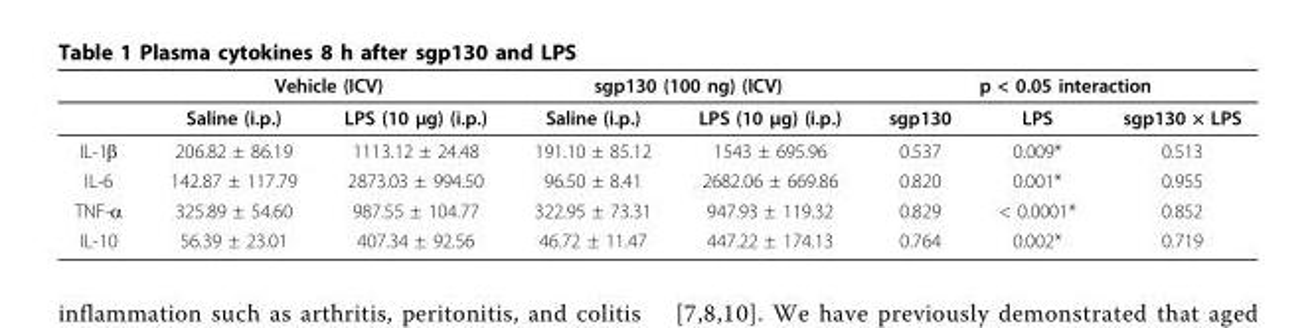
<table><thead><tr><td rowspan="2"></td><td colspan="2">Vehicle (ICV)</td><td colspan="2">sgp130 (100 ng) (ICV)</td><td colspan="3">p &lt; 0.05 interaction</td></tr><tr><td>Saline (i.p.)</td><td>LPS (10 μg) (i.p.)</td><td>Saline (i.p.)</td><td>LPS (10 μg) (i.p.)</td><td>sgp130</td><td>LPS</td><td>sgp130 × LPS</td></tr></thead><tbody><tr><td>IL-1β</td><td>206.82 ± 86.19</td><td>1113.12 ± 24.48</td><td>191.10 ± 85.12</td><td>1543 ± 695.96</td><td>0.537</td><td>0.009*</td><td>0.513</td></tr><tr><td>IL-6</td><td>142.87 ± 117.79</td><td>2873.03 ± 994.50</td><td>96.50 ± 8.41</td><td>2682.06 ± 669.86</td><td>0.820</td><td>0.001*</td><td>0.955</td></tr><tr><td>TNF-α</td><td>325.89 ± 54.60</td><td>987.55 ± 104.77</td><td>322.95 ± 73.31</td><td>947.93 ± 119.32</td><td>0.829</td><td>&lt; 0.0001*</td><td>0.852</td></tr><tr><td>IL-10</td><td>56.39 ± 23.01</td><td>407.34 ± 92.56</td><td>46.72 ± 11.47</td><td>447.22 ± 174.13</td><td>0.764</td><td>0.002*</td><td>0.719</td></tr></tbody></table>